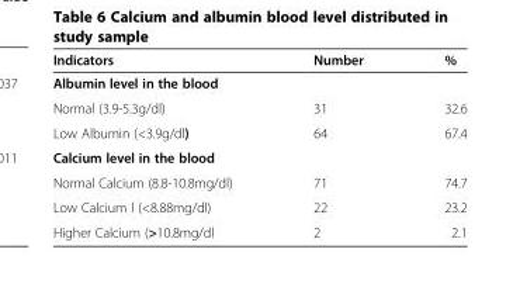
<table><thead><tr><td>Indicators</td><td>Number</td><td>%</td></tr></thead><tbody><tr><td colspan="3">Albumin level in the blood</td></tr><tr><td>Normal (3.9-5.3g/dl)</td><td>31</td><td>32.6</td></tr><tr><td>Low Albumin (&lt;3.9g/dl)</td><td>64</td><td>67.4</td></tr><tr><td colspan="3">Calcium level in the blood</td></tr><tr><td>Normal Calcium (8.8-10.8mg/dl)</td><td>71</td><td>74.7</td></tr><tr><td>Low Calcium l (&lt;8.88mg/dl)</td><td>22</td><td>23.2</td></tr><tr><td>Higher Calcium (&gt;10.8mg/dl</td><td>2</td><td>2.1</td></tr></tbody></table>